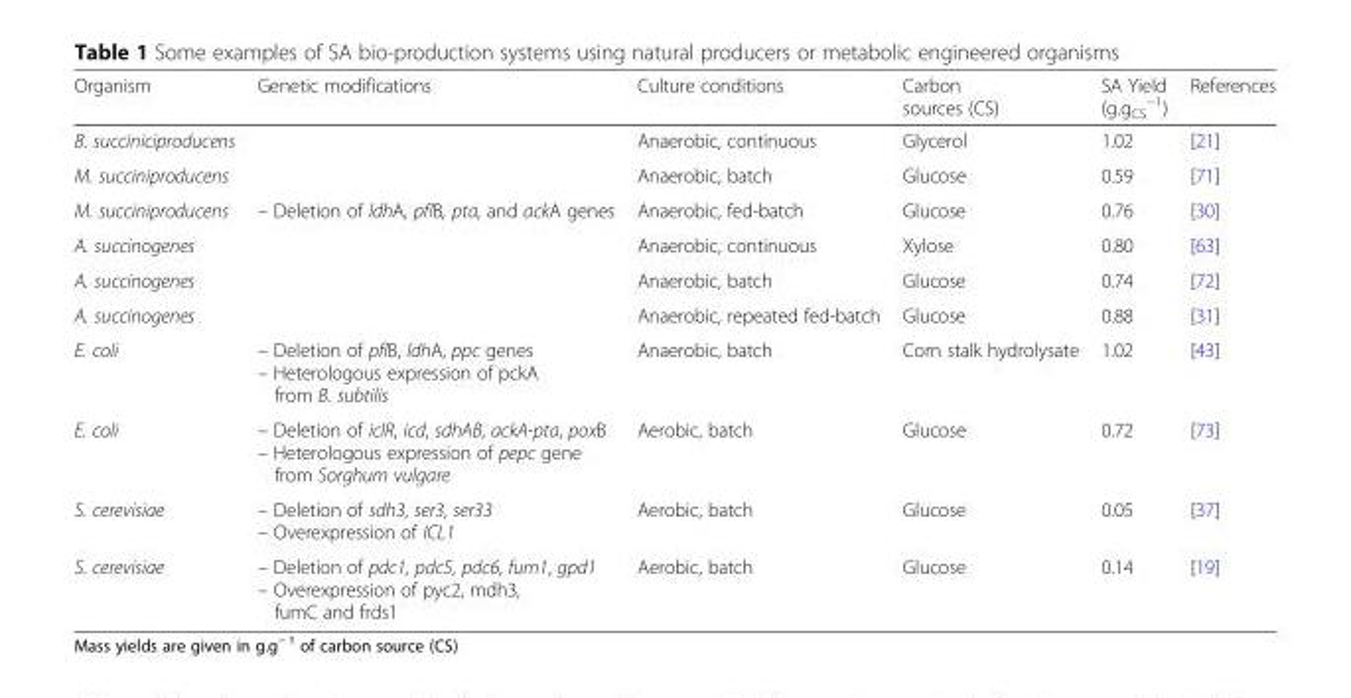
<table><thead><tr><td>Organism</td><td>Genetic modifications</td><td>Culture conditions</td><td>Carbon sources (CS)</td><td>SA Yield (g.g<sub>CS</sub> <sup>−1</sup>)</td><td>References</td></tr></thead><tbody><tr><td>B. succiniciproducens</td><td></td><td>Anaerobic, continuous</td><td>Glycerol</td><td>1.02</td><td>[21]</td></tr><tr><td>M. succiniproducens</td><td></td><td>Anaerobic, batch</td><td>Glucose</td><td>0.59</td><td>[71]</td></tr><tr><td>M. succiniproducens</td><td>– Deletion of ldhA, pflB, pta, and ackA genes</td><td>Anaerobic, fed-batch</td><td>Glucose</td><td>0.76</td><td>[30]</td></tr><tr><td>A. succinogenes</td><td></td><td>Anaerobic, continuous</td><td>Xylose</td><td>0.80</td><td>[63]</td></tr><tr><td>A. succinogenes</td><td></td><td>Anaerobic, batch</td><td>Glucose</td><td>0.74</td><td>[72]</td></tr><tr><td>A. succinogenes</td><td></td><td>Anaerobic, repeated fed-batch</td><td>Glucose</td><td>0.88</td><td>[31]</td></tr><tr><td>E. coli</td><td>– Deletion of pflB, ldhA, ppc genes – Heterologous expression of pckA from B. subtilis</td><td>Anaerobic, batch</td><td>Corn stalk hydrolysate</td><td>1.02</td><td>[43]</td></tr><tr><td>E. coli</td><td>– Deletion of iclR, icd, sdhAB, ackA-pta, poxB – Heterologous expression of pepc gene from Sorghum vulgare</td><td>Aerobic, batch</td><td>Glucose</td><td>0.72</td><td>[73]</td></tr><tr><td>S. cerevisiae</td><td>– Deletion of sdh3, ser3, ser33 – Overexpression of ICL1</td><td>Aerobic, batch</td><td>Glucose</td><td>0.05</td><td>[37]</td></tr><tr><td>S. cerevisiae</td><td>– Deletion of pdc1, pdc5, pdc6, fum1, gpd1 – Overexpression of pyc2, mdh3, fumC and frds1</td><td>Aerobic, batch</td><td>Glucose</td><td>0.14</td><td>[19]</td></tr></tbody></table>